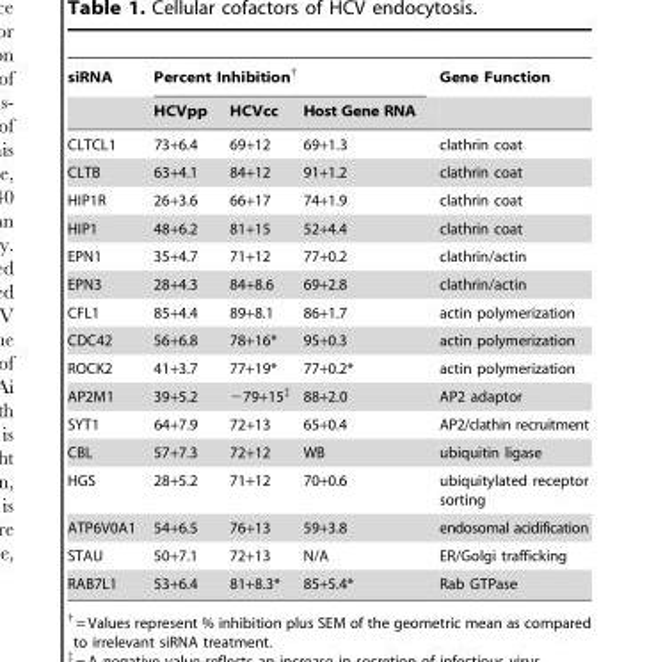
<table><thead><tr><td rowspan="2">siRNA</td><td colspan="3">Percent Inhibition†</td><td rowspan="2">Gene Function</td></tr><tr><td>HCVpp</td><td>HCVcc</td><td>Host Gene RNA</td></tr></thead><tbody><tr><td>CLTCL1</td><td>73+6.4</td><td>69+12</td><td>69+1.3</td><td>clathrin coat</td></tr><tr><td>CLTB</td><td>63+4.1</td><td>84+12</td><td>91+1.2</td><td>clathrin coat</td></tr><tr><td>HIP1R</td><td>26+3.6</td><td>66+17</td><td>74+1.9</td><td>clathrin coat</td></tr><tr><td>HIP1</td><td>48+6.2</td><td>81+15</td><td>52+4.4</td><td>clathrin coat</td></tr><tr><td>EPN1</td><td>35+4.7</td><td>71+12</td><td>77+0.2</td><td>clathrin/actin</td></tr><tr><td>EPN3</td><td>28+4.3</td><td>84+8.6</td><td>69+2.8</td><td>clathrin/actin</td></tr><tr><td>CFL1</td><td>85+4.4</td><td>89+8.1</td><td>86+1.7</td><td>actin polymerization</td></tr><tr><td>CDC42</td><td>56+6.8</td><td>78+16*</td><td>95+0.3</td><td>actin polymerization</td></tr><tr><td>ROCK2</td><td>41+3.7</td><td>77+19*</td><td>77+0.2*</td><td>actin polymerization</td></tr><tr><td>AP2M1</td><td>39+5.2</td><td>−79+15‡</td><td>88+2.0</td><td>AP2 adaptor</td></tr><tr><td>SYT1</td><td>64+7.9</td><td>72+13</td><td>65+0.4</td><td>AP2/clathin recruitment</td></tr><tr><td>CBL</td><td>57+7.3</td><td>72+12</td><td>WB</td><td>ubiquitin ligase</td></tr><tr><td>HGS</td><td>28+5.2</td><td>71+12</td><td>70+0.6</td><td>ubiquitylated receptor sorting</td></tr><tr><td>ATP6V0A1</td><td>54+6.5</td><td>76+13</td><td>59+3.8</td><td>endosomal acidification</td></tr><tr><td>STAU</td><td>50+7.1</td><td>72+13</td><td>N/A</td><td>ER/Golgi trafficking</td></tr><tr><td>RAB7L1</td><td>53+6.4</td><td>81+8.3*</td><td>85+5.4*</td><td>Rab GTPase</td></tr></tbody></table>